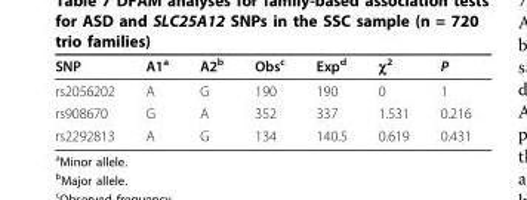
<table><thead><tr><td>SNP</td><td>A1<sup>a</sup></td><td>A2<sup>b</sup></td><td>Obs<sup>c</sup></td><td>Exp<sup>d</sup></td><td>χ<sup>2</sup></td><td>P</td></tr></thead><tbody><tr><td>rs2056202</td><td>A</td><td>G</td><td>190</td><td>190</td><td>0</td><td>1</td></tr><tr><td>rs908670</td><td>G</td><td>A</td><td>352</td><td>337</td><td>1.531</td><td>0.216</td></tr><tr><td>rs2292813</td><td>A</td><td>G</td><td>134</td><td>140.5</td><td>0.619</td><td>0.431</td></tr></tbody></table>